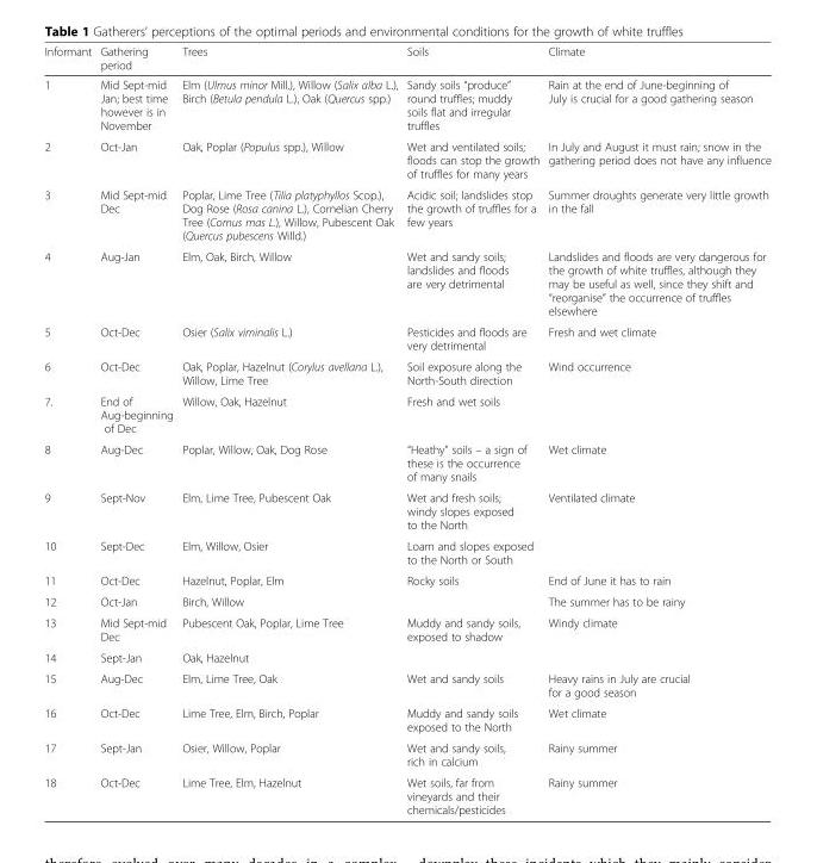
<table><thead><tr><td>Informant</td><td>Gathering period</td><td>Trees</td><td>Soils</td><td>Climate</td></tr></thead><tbody><tr><td>1</td><td>Mid Sept-mid Jan; best time however is in November</td><td>Elm (Ulmus minor Mill.), Willow (Salix alba L.), Birch (Betula pendula L.), Oak (Quercus spp.)</td><td>Sandy soils “produce” round truffles; muddy soils flat and irregular truffles</td><td>Rain at the end of June-beginning of July is crucial for a good gathering season</td></tr><tr><td>2</td><td>Oct-Jan</td><td>Oak, Poplar (Populus spp.), Willow</td><td>Wet and ventilated soils; floods can stop the growth of truffles for many years</td><td>In July and August it must rain; snow in the gathering period does not have any influence</td></tr><tr><td>3</td><td>Mid Sept-mid Dec</td><td>Poplar, Lime Tree (Tilia platyphyllos Scop.), Dog Rose (Rosa canina L.), Cornelian Cherry Tree (Cornus mas L.), Willow, Pubescent Oak (Quercus pubescens Willd.)</td><td>Acidic soil; landslides stop the growth of truffles for a few years</td><td>Summer droughts generate very little growth in the fall</td></tr><tr><td>4</td><td>Aug-Jan</td><td>Elm, Oak, Birch, Willow</td><td>Wet and sandy soils; landslides and floods are very detrimental</td><td>Landslides and floods are very dangerous for the growth of white truffles, although they may be useful as well, since they shift and “reorganise” the occurrence of truffles elsewhere</td></tr><tr><td>5</td><td>Oct-Dec</td><td>Osier (Salix viminalis L.)</td><td>Pesticides and floods are very detrimental</td><td>Fresh and wet climate</td></tr><tr><td>6</td><td>Oct-Dec</td><td>Oak, Poplar, Hazelnut (Corylus avellana L.), Willow, Lime Tree</td><td>Soil exposure along the North-South direction</td><td>Wind occurrence</td></tr><tr><td>7.</td><td>End of Aug-beginning of Dec</td><td>Willow, Oak, Hazelnut</td><td>Fresh and wet soils</td><td></td></tr><tr><td>8</td><td>Aug-Dec</td><td>Poplar, Willow, Oak, Dog Rose</td><td>“Heathy” soils – a sign of these is the occurrence of many snails</td><td>Wet climate</td></tr><tr><td>9</td><td>Sept-Nov</td><td>Elm, Lime Tree, Pubescent Oak</td><td>Wet and fresh soils; windy slopes exposed to the North</td><td>Ventilated climate</td></tr><tr><td>10</td><td>Sept-Dec</td><td>Elm, Willow, Osier</td><td>Loam and slopes exposed to the North or South</td><td></td></tr><tr><td>11</td><td>Oct-Dec</td><td>Hazelnut, Poplar, Elm</td><td>Rocky soils</td><td>End of June it has to rain</td></tr><tr><td>12</td><td>Oct-Jan</td><td>Birch, Willow</td><td></td><td>The summer has to be rainy</td></tr><tr><td>13</td><td>Mid Sept-mid Dec</td><td>Pubescent Oak, Poplar, Lime Tree</td><td>Muddy and sandy soils, exposed to shadow</td><td>Windy climate</td></tr><tr><td>14</td><td>Sept-Jan</td><td>Oak, Hazelnut</td><td></td><td></td></tr><tr><td>15</td><td>Aug-Dec</td><td>Elm, Lime Tree, Oak</td><td>Wet and sandy soils</td><td>Heavy rains in July are crucial for a good season</td></tr><tr><td>16</td><td>Oct-Dec</td><td>Lime Tree, Elm, Birch, Poplar</td><td>Muddy and sandy soils exposed to the North</td><td>Wet climate</td></tr><tr><td>17</td><td>Sept-Jan</td><td>Osier, Willow, Poplar</td><td>Wet and sandy soils, rich in calcium</td><td>Rainy summer</td></tr><tr><td>18</td><td>Oct-Dec</td><td>Lime Tree, Elm, Hazelnut</td><td>Wet soils, far from vineyards and their chemicals/pesticides</td><td>Rainy summer</td></tr></tbody></table>